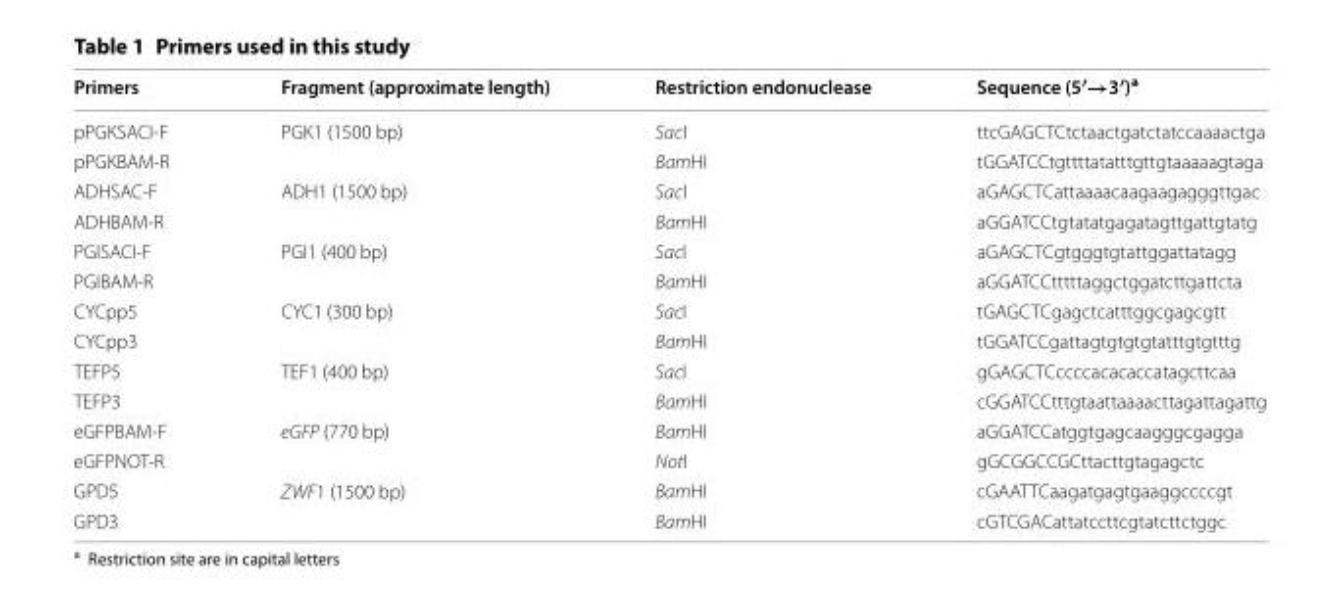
<table><thead><tr><td>Primers</td><td>Fragment (approximate length)</td><td>Restriction endonuclease</td><td>Sequence (5′→3′)<sup>a</sup></td></tr></thead><tbody><tr><td>pPGKSACI-F</td><td rowspan="2">PGK1 (1500 bp)</td><td>SacI</td><td>ttcGAG CTC tctaactgatctatccaaaactga</td></tr><tr><td>pPGKBAM-R</td><td>BamHI</td><td>tGGA TCC tgttttatatttgttgtaaaaagtaga</td></tr><tr><td>ADHSAC-F</td><td rowspan="2">ADH1 (1500 bp)</td><td>SacI</td><td>aGAG CTC attaaaacaagaagagggttgac</td></tr><tr><td>ADHBAM-R</td><td>BamHI</td><td>aGGA TCC tgtatatgagatagttgattgtatg</td></tr><tr><td>PGISACI-F</td><td rowspan="2">PGI1 (400 bp)</td><td>SacI</td><td>aGAG CTC gtgggtgtattggattatagg</td></tr><tr><td>PGIBAM-R</td><td>BamHI</td><td>aGGA TCC tttttaggctggatcttgattcta</td></tr><tr><td>CYCpp5</td><td rowspan="2">CYC1 (300 bp)</td><td>SacI</td><td>tGAG CTC gagctcatttggcgagcgtt</td></tr><tr><td>CYCpp3</td><td>BamHI</td><td>tGGA TCC gattagtgtgtgtatttgtgtttg</td></tr><tr><td>TEFP5</td><td rowspan="2">TEF1 (400 bp)</td><td>SacI</td><td>gGAG CTC ccccacacaccatagcttcaa</td></tr><tr><td>TEFP3</td><td>BamHI</td><td>cGGA TCC tttgtaattaaaacttagattagattg</td></tr><tr><td>eGFPBAM-F</td><td rowspan="2">eGFP (770 bp)</td><td>BamHI</td><td>aGGA TCC atggtgagcaagggcgagga</td></tr><tr><td>eGFPNOT-R</td><td>NotI</td><td>gGCG GCC GCttacttgtagagctc</td></tr><tr><td>GPD5</td><td rowspan="2">ZWF1 (1500 bp)</td><td>BamHI</td><td>cGAA TTC aagatgagtgaaggccccgt</td></tr><tr><td>GPD3</td><td>BamHI</td><td>cGTC GAC attatccttcgtatcttctggc</td></tr></tbody></table>